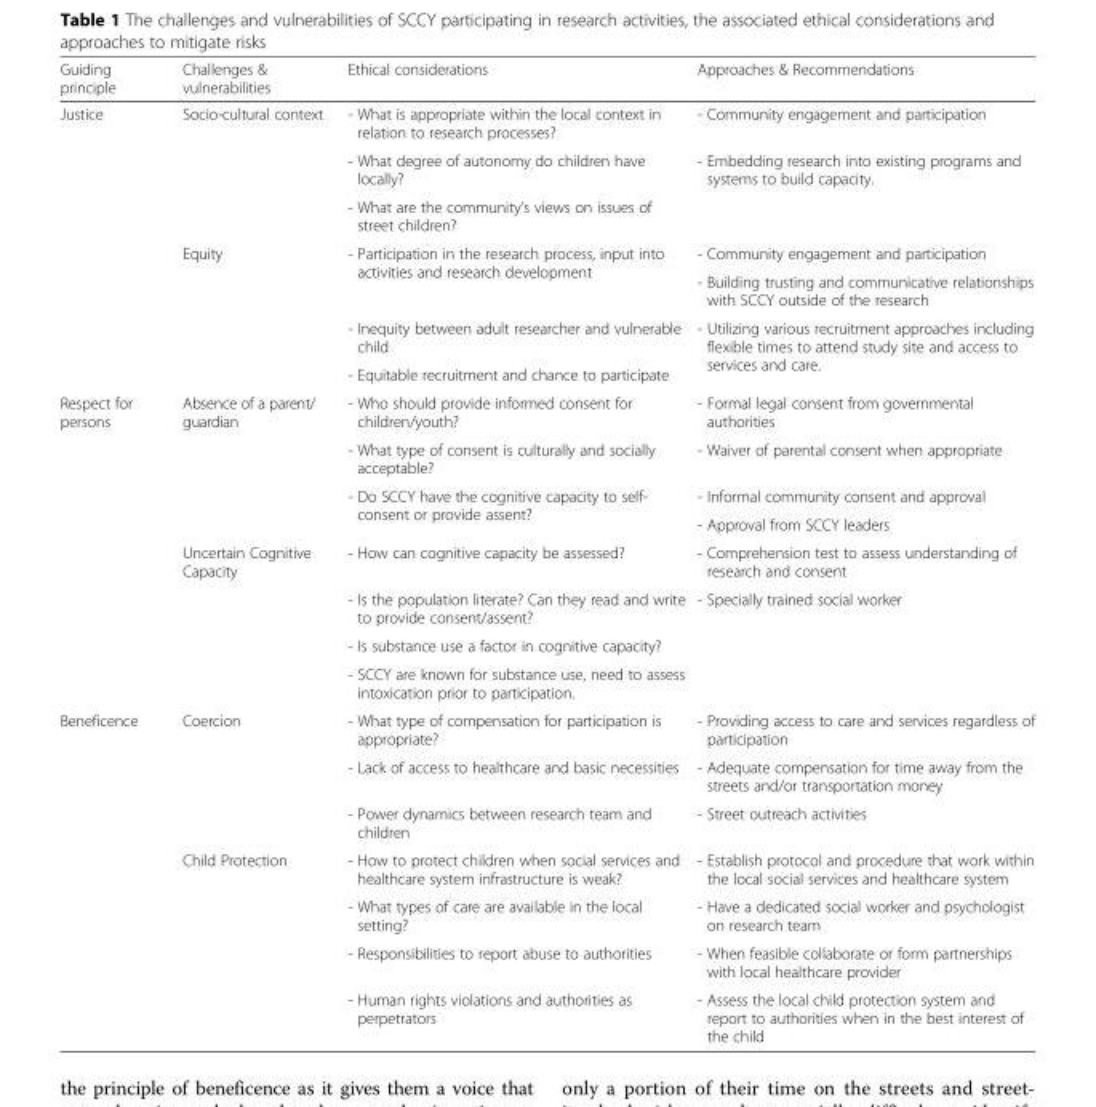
<table><thead><tr><td>Guiding principle</td><td>Challenges &amp; vulnerabilities</td><td>Ethical considerations</td><td>Approaches &amp; Recommendations</td></tr></thead><tbody><tr><td rowspan="7">Justice</td><td rowspan="3">Socio-cultural context</td><td>- What is appropriate within the local context in relation to research processes?</td><td>- Community engagement and participation</td></tr><tr><td>- What degree of autonomy do children have locally?</td><td rowspan="2">- Embedding research into existing programs and systems to build capacity.</td></tr><tr><td>- What are the community’s views on issues of street children?</td></tr><tr><td rowspan="4">Equity</td><td rowspan="2">- Participation in the research process, input into activities and research development</td><td>- Community engagement and participation</td></tr><tr><td>- Building trusting and communicative relationships with SCCY outside of the research</td></tr><tr><td>- Inequity between adult researcher and vulnerable child</td><td rowspan="2">- Utilizing various recruitment approaches including flexible times to attend study site and access to services and care.</td></tr><tr><td>- Equitable recruitment and chance to participate</td></tr><tr><td rowspan="8">Respect for persons</td><td rowspan="4">Absence of a parent/ guardian</td><td>- Who should provide informed consent for children/youth?</td><td>- Formal legal consent from governmental authorities</td></tr><tr><td>- What type of consent is culturally and socially acceptable?</td><td>- Waiver of parental consent when appropriate</td></tr><tr><td rowspan="2">- Do SCCY have the cognitive capacity to self- consent or provide assent?</td><td>- Informal community consent and approval</td></tr><tr><td>- Approval from SCCY leaders</td></tr><tr><td rowspan="4">Uncertain Cognitive Capacity</td><td>- How can cognitive capacity be assessed?</td><td>- Comprehension test to assess understanding of research and consent</td></tr><tr><td>- Is the population literate? Can they read and write to provide consent/assent?</td><td rowspan="3">- Specially trained social worker</td></tr><tr><td>- Is substance use a factor in cognitive capacity?</td></tr><tr><td>- SCCY are known for substance use, need to assess intoxication prior to participation.</td></tr><tr><td rowspan="7">Beneficence</td><td rowspan="3">Coercion</td><td>- What type of compensation for participation is appropriate?</td><td>- Providing access to care and services regardless of participation</td></tr><tr><td>- Lack of access to healthcare and basic necessities</td><td>- Adequate compensation for time away from the streets and/or transportation money</td></tr><tr><td>- Power dynamics between research team and children</td><td>- Street outreach activities</td></tr><tr><td rowspan="4">Child Protection</td><td>- How to protect children when social services and healthcare system infrastructure is weak?</td><td>- Establish protocol and procedure that work within the local social services and healthcare system</td></tr><tr><td>- What types of care are available in the local setting?</td><td>- Have a dedicated social worker and psychologist on research team</td></tr><tr><td>- Responsibilities to report abuse to authorities</td><td>- When feasible collaborate or form partnerships with local healthcare provider</td></tr><tr><td>- Human rights violations and authorities as perpetrators</td><td>- Assess the local child protection system and report to authorities when in the best interest of the child</td></tr></tbody></table>